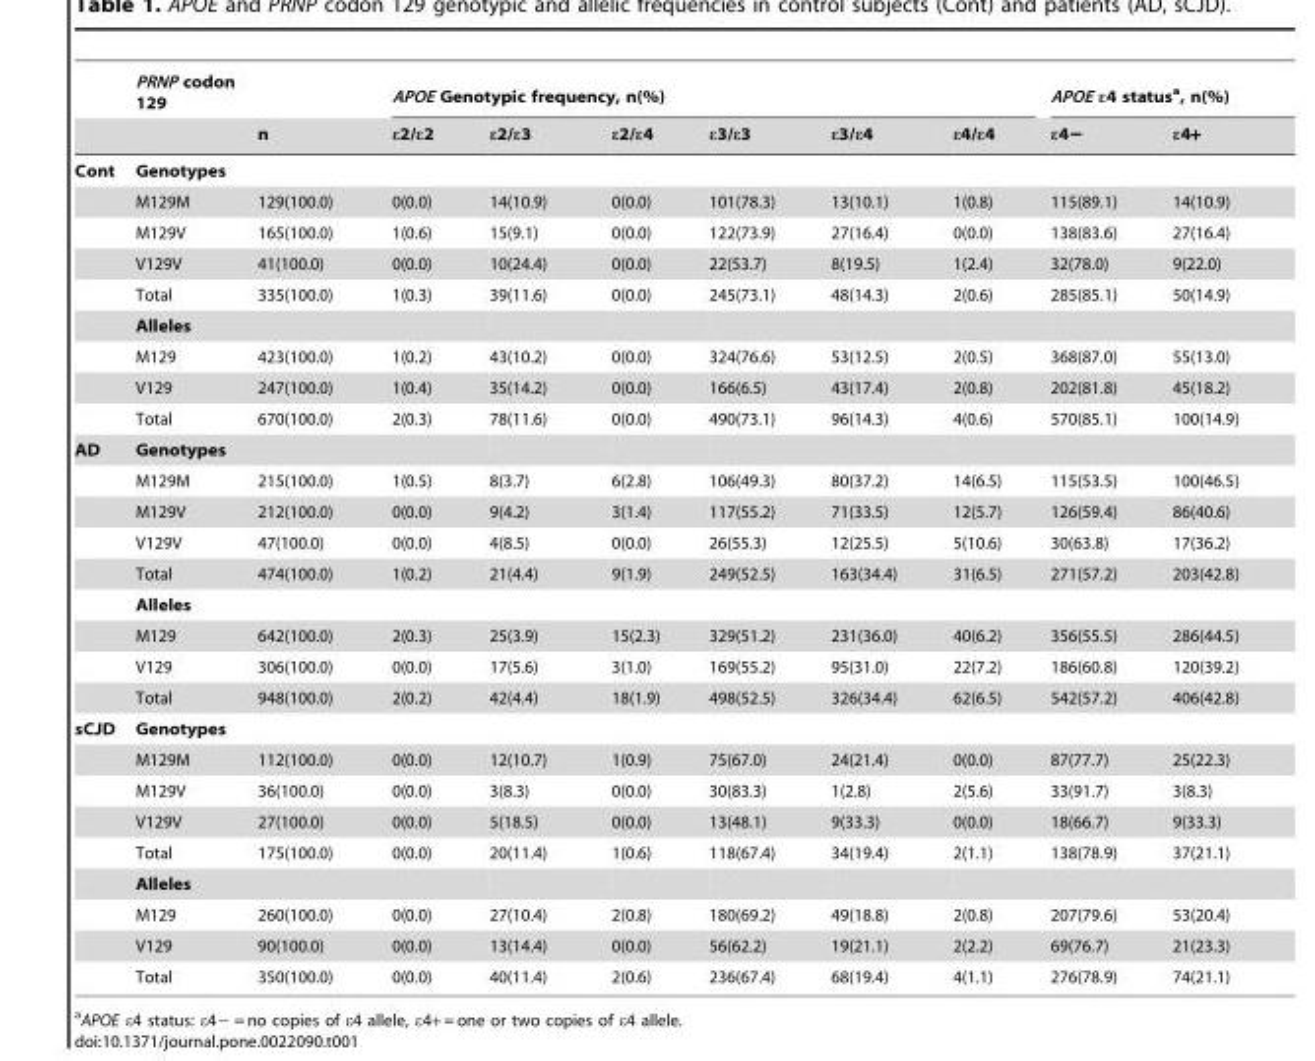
<table><thead><tr><td rowspan="2"></td><td rowspan="2">PRNP codon 129</td><td rowspan="2">n</td><td colspan="6">APOE Genotypic frequency, n(%)</td><td colspan="2">APOE ε4 status<sup>a</sup>, n(%)</td></tr><tr><td>ε2/ε2</td><td>ε2/ε3</td><td>ε2/ε4</td><td>ε3/ε3</td><td>ε3/ε4</td><td>ε4/ε4</td><td>ε4−</td><td>ε4+</td></tr></thead><tbody><tr><td rowspan="9">Cont</td><td>Genotypes</td><td></td><td></td><td></td><td></td><td></td><td></td><td></td><td></td><td></td></tr><tr><td>M129M</td><td>129(100.0)</td><td>0(0.0)</td><td>14(10.9)</td><td>0(0.0)</td><td>101(78.3)</td><td>13(10.1)</td><td>1(0.8)</td><td>115(89.1)</td><td>14(10.9)</td></tr><tr><td>M129V</td><td>165(100.0)</td><td>1(0.6)</td><td>15(9.1)</td><td>0(0.0)</td><td>122(73.9)</td><td>27(16.4)</td><td>0(0.0)</td><td>138(83.6)</td><td>27(16.4)</td></tr><tr><td>V129V</td><td>41(100.0)</td><td>0(0.0)</td><td>10(24.4)</td><td>0(0.0)</td><td>22(53.7)</td><td>8(19.5)</td><td>1(2.4)</td><td>32(78.0)</td><td>9(22.0)</td></tr><tr><td>Total</td><td>335(100.0)</td><td>1(0.3)</td><td>39(11.6)</td><td>0(0.0)</td><td>245(73.1)</td><td>48(14.3)</td><td>2(0.6)</td><td>285(85.1)</td><td>50(14.9)</td></tr><tr><td>Alleles</td><td></td><td></td><td></td><td></td><td></td><td></td><td></td><td></td><td></td></tr><tr><td>M129</td><td>423(100.0)</td><td>1(0.2)</td><td>43(10.2)</td><td>0(0.0)</td><td>324(76.6)</td><td>53(12.5)</td><td>2(0.5)</td><td>368(87.0)</td><td>55(13.0)</td></tr><tr><td>V129</td><td>247(100.0)</td><td>1(0.4)</td><td>35(14.2)</td><td>0(0.0)</td><td>166(6.5)</td><td>43(17.4)</td><td>2(0.8)</td><td>202(81.8)</td><td>45(18.2)</td></tr><tr><td>Total</td><td>670(100.0)</td><td>2(0.3)</td><td>78(11.6)</td><td>0(0.0)</td><td>490(73.1)</td><td>96(14.3)</td><td>4(0.6)</td><td>570(85.1)</td><td>100(14.9)</td></tr><tr><td rowspan="9">AD</td><td>Genotypes</td><td></td><td></td><td></td><td></td><td></td><td></td><td></td><td></td><td></td></tr><tr><td>M129M</td><td>215(100.0)</td><td>1(0.5)</td><td>8(3.7)</td><td>6(2.8)</td><td>106(49.3)</td><td>80(37.2)</td><td>14(6.5)</td><td>115(53.5)</td><td>100(46.5)</td></tr><tr><td>M129V</td><td>212(100.0)</td><td>0(0.0)</td><td>9(4.2)</td><td>3(1.4)</td><td>117(55.2)</td><td>71(33.5)</td><td>12(5.7)</td><td>126(59.4)</td><td>86(40.6)</td></tr><tr><td>V129V</td><td>47(100.0)</td><td>0(0.0)</td><td>4(8.5)</td><td>0(0.0)</td><td>26(55.3)</td><td>12(25.5)</td><td>5(10.6)</td><td>30(63.8)</td><td>17(36.2)</td></tr><tr><td>Total</td><td>474(100.0)</td><td>1(0.2)</td><td>21(4.4)</td><td>9(1.9)</td><td>249(52.5)</td><td>163(34.4)</td><td>31(6.5)</td><td>271(57.2)</td><td>203(42.8)</td></tr><tr><td>Alleles</td><td></td><td></td><td></td><td></td><td></td><td></td><td></td><td></td><td></td></tr><tr><td>M129</td><td>642(100.0)</td><td>2(0.3)</td><td>25(3.9)</td><td>15(2.3)</td><td>329(51.2)</td><td>231(36.0)</td><td>40(6.2)</td><td>356(55.5)</td><td>286(44.5)</td></tr><tr><td>V129</td><td>306(100.0)</td><td>0(0.0)</td><td>17(5.6)</td><td>3(1.0)</td><td>169(55.2)</td><td>95(31.0)</td><td>22(7.2)</td><td>186(60.8)</td><td>120(39.2)</td></tr><tr><td>Total</td><td>948(100.0)</td><td>2(0.2)</td><td>42(4.4)</td><td>18(1.9)</td><td>498(52.5)</td><td>326(34.4)</td><td>62(6.5)</td><td>542(57.2)</td><td>406(42.8)</td></tr><tr><td rowspan="9">sCJD</td><td>Genotypes</td><td></td><td></td><td></td><td></td><td></td><td></td><td></td><td></td><td></td></tr><tr><td>M129M</td><td>112(100.0)</td><td>0(0.0)</td><td>12(10.7)</td><td>1(0.9)</td><td>75(67.0)</td><td>24(21.4)</td><td>0(0.0)</td><td>87(77.7)</td><td>25(22.3)</td></tr><tr><td>M129V</td><td>36(100.0)</td><td>0(0.0)</td><td>3(8.3)</td><td>0(0.0)</td><td>30(83.3)</td><td>1(2.8)</td><td>2(5.6)</td><td>33(91.7)</td><td>3(8.3)</td></tr><tr><td>V129V</td><td>27(100.0)</td><td>0(0.0)</td><td>5(18.5)</td><td>0(0.0)</td><td>13(48.1)</td><td>9(33.3)</td><td>0(0.0)</td><td>18(66.7)</td><td>9(33.3)</td></tr><tr><td>Total</td><td>175(100.0)</td><td>0(0.0)</td><td>20(11.4)</td><td>1(0.6)</td><td>118(67.4)</td><td>34(19.4)</td><td>2(1.1)</td><td>138(78.9)</td><td>37(21.1)</td></tr><tr><td>Alleles</td><td></td><td></td><td></td><td></td><td></td><td></td><td></td><td></td><td></td></tr><tr><td>M129</td><td>260(100.0)</td><td>0(0.0)</td><td>27(10.4)</td><td>2(0.8)</td><td>180(69.2)</td><td>49(18.8)</td><td>2(0.8)</td><td>207(79.6)</td><td>53(20.4)</td></tr><tr><td>V129</td><td>90(100.0)</td><td>0(0.0)</td><td>13(14.4)</td><td>0(0.0)</td><td>56(62.2)</td><td>19(21.1)</td><td>2(2.2)</td><td>69(76.7)</td><td>21(23.3)</td></tr><tr><td>Total</td><td>350(100.0)</td><td>0(0.0)</td><td>40(11.4)</td><td>2(0.6)</td><td>236(67.4)</td><td>68(19.4)</td><td>4(1.1)</td><td>276(78.9)</td><td>74(21.1)</td></tr></tbody></table>